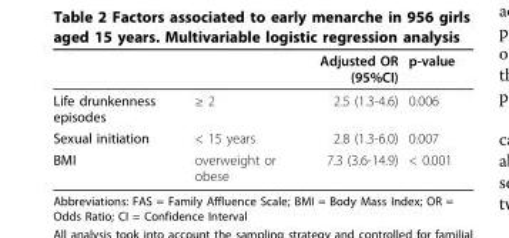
<table><thead><tr><td></td><td></td><td>Adjusted OR (95%CI)</td><td>p-value</td></tr></thead><tbody><tr><td>Life drunkenness episodes</td><td>≥ 2</td><td>2.5 (1.3-4.6)</td><td>0.006</td></tr><tr><td>Sexual initiation</td><td>&lt; 15 years</td><td>2.8 (1.3-6.0)</td><td>0.007</td></tr><tr><td>BMI</td><td>overweight or obese</td><td>7.3 (3.6-14.9)</td><td>&lt; 0.001</td></tr></tbody></table>